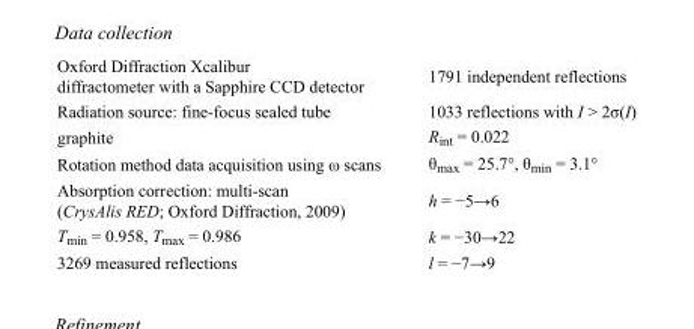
<table><tbody><tr><td>Oxford Diffraction Xcalibur diffractometer with a Sapphire CCD detector</td><td>1791 independent reflections</td></tr><tr><td>Radiation source: fine-focus sealed tube</td><td>1033 reflections with I &gt; 2σ(I)</td></tr><tr><td>graphite</td><td>R<sub>int</sub> = 0.022</td></tr><tr><td>Rotation method data acquisition using ω scans</td><td>θ<sub>max</sub> = 25.7°, θ<sub>min</sub> = 3.1°</td></tr><tr><td>Absorption correction: multi-scan (CrysAlis RED; Oxford Diffraction, 2009)</td><td>h = −5→6</td></tr><tr><td>T<sub>min</sub> = 0.958, T<sub>max</sub> = 0.986</td><td>k = −30→22</td></tr><tr><td>3269 measured reflections</td><td>l = −7→9</td></tr></tbody></table>